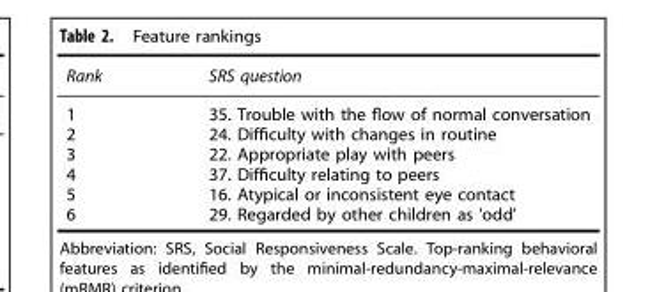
<table><thead><tr><td>Rank</td><td>SRS question</td></tr></thead><tbody><tr><td>1</td><td>35. Trouble with the flow of normal conversation</td></tr><tr><td>2</td><td>24. Difficulty with changes in routine</td></tr><tr><td>3</td><td>22. Appropriate play with peers</td></tr><tr><td>4</td><td>37. Difficulty relating to peers</td></tr><tr><td>5</td><td>16. Atypical or inconsistent eye contact</td></tr><tr><td>6</td><td>29. Regarded by other children as &#x27;odd&#x27;</td></tr></tbody></table>